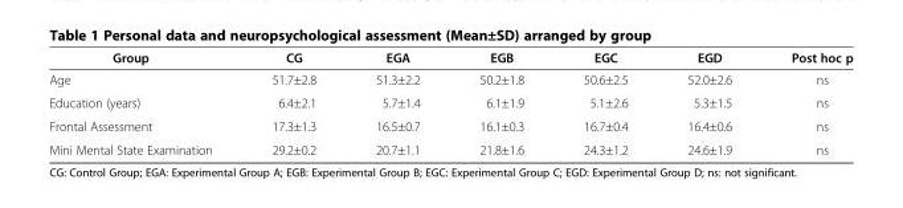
<table><thead><tr><td>Group</td><td>CG</td><td>EGA</td><td>EGB</td><td>EGC</td><td>EGD</td><td>Post hoc p</td></tr></thead><tbody><tr><td>Age</td><td>51.7±2.8</td><td>51.3±2.2</td><td>50.2±1.8</td><td>50.6±2.5</td><td>52.0±2.6</td><td>ns</td></tr><tr><td>Education (years)</td><td>6.4±2.1</td><td>5.7±1.4</td><td>6.1±1.9</td><td>5.1±2.6</td><td>5.3±1.5</td><td>ns</td></tr><tr><td>Frontal Assessment</td><td>17.3±1.3</td><td>16.5±0.7</td><td>16.1±0.3</td><td>16.7±0.4</td><td>16.4±0.6</td><td>ns</td></tr><tr><td>Mini Mental State Examination</td><td>29.2±0.2</td><td>20.7±1.1</td><td>21.8±1.6</td><td>24.3±1.2</td><td>24.6±1.9</td><td>ns</td></tr></tbody></table>